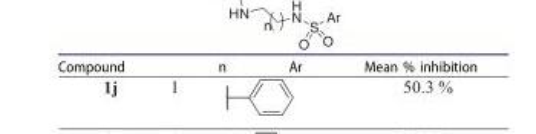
<table><tbody><tr><td>Compound</td><td>n</td><td>Ar</td><td>Mean % inhibition</td></tr></tbody></table>